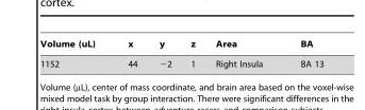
<table><thead><tr><td>Volume (uL)</td><td>x</td><td>y</td><td>z</td><td>Area</td><td>BA</td></tr></thead><tbody><tr><td>1152</td><td>44</td><td>−2</td><td>1</td><td>Right Insula</td><td>BA 13</td></tr></tbody></table>